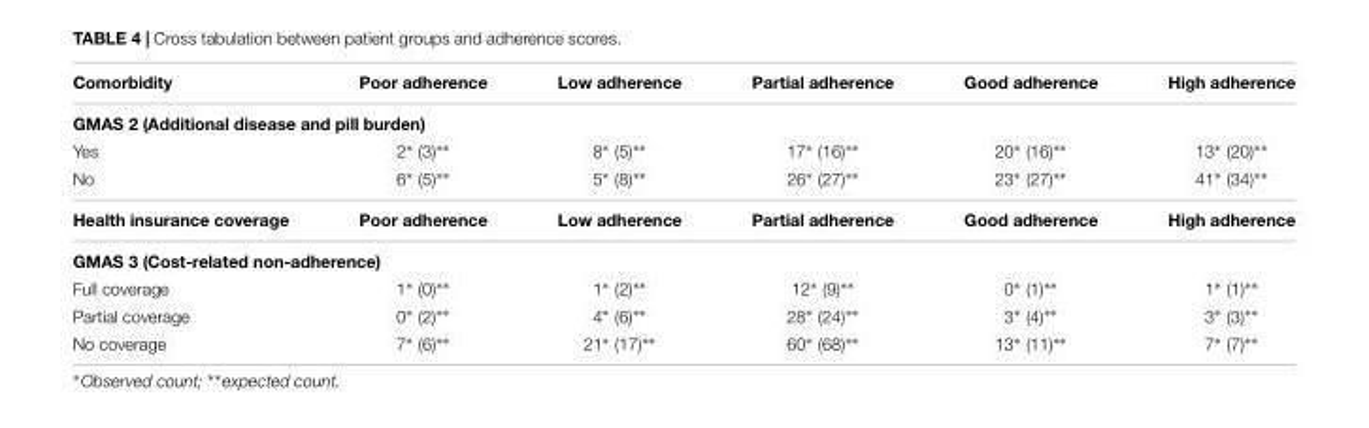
<table><thead><tr><td>Comorbidity</td><td>Poor adherence</td><td>Low adherence</td><td>Partial adherence</td><td>Good adherence</td><td>High adherence</td></tr></thead><tbody><tr><td colspan="6">GMAS 2 (Additional disease and pill burden)</td></tr><tr><td>Yes</td><td>2∗ (3)∗∗</td><td>8∗ (5)∗∗</td><td>17∗ (16)∗∗</td><td>20∗ (16)∗∗</td><td>13∗ (20)∗∗</td></tr><tr><td>No</td><td>6∗ (5)∗∗</td><td>5∗ (8)∗∗</td><td>26∗ (27)∗∗</td><td>23∗ (27)∗∗</td><td>41∗ (34)∗∗</td></tr><tr><td>Health insurance coverage</td><td>Poor adherence</td><td>Low adherence</td><td>Partial adherence</td><td>Good adherence</td><td>High adherence</td></tr><tr><td colspan="6">GMAS 3 (Cost-related non-adherence)</td></tr><tr><td>Full coverage</td><td>1∗ (0)∗∗</td><td>1∗ (2)∗∗</td><td>12∗ (9)∗∗</td><td>0∗ (1)∗∗</td><td>1∗ (1)∗∗</td></tr><tr><td>Partial coverage</td><td>0∗ (2)∗∗</td><td>4∗ (6)∗∗</td><td>28∗ (24)∗∗</td><td>3∗ (4)∗∗</td><td>3∗ (3)∗∗</td></tr><tr><td>No coverage</td><td>7∗ (6)∗∗</td><td>21∗ (17)∗∗</td><td>60∗ (68)∗∗</td><td>13∗ (11)∗∗</td><td>7∗ (7)∗∗</td></tr></tbody></table>